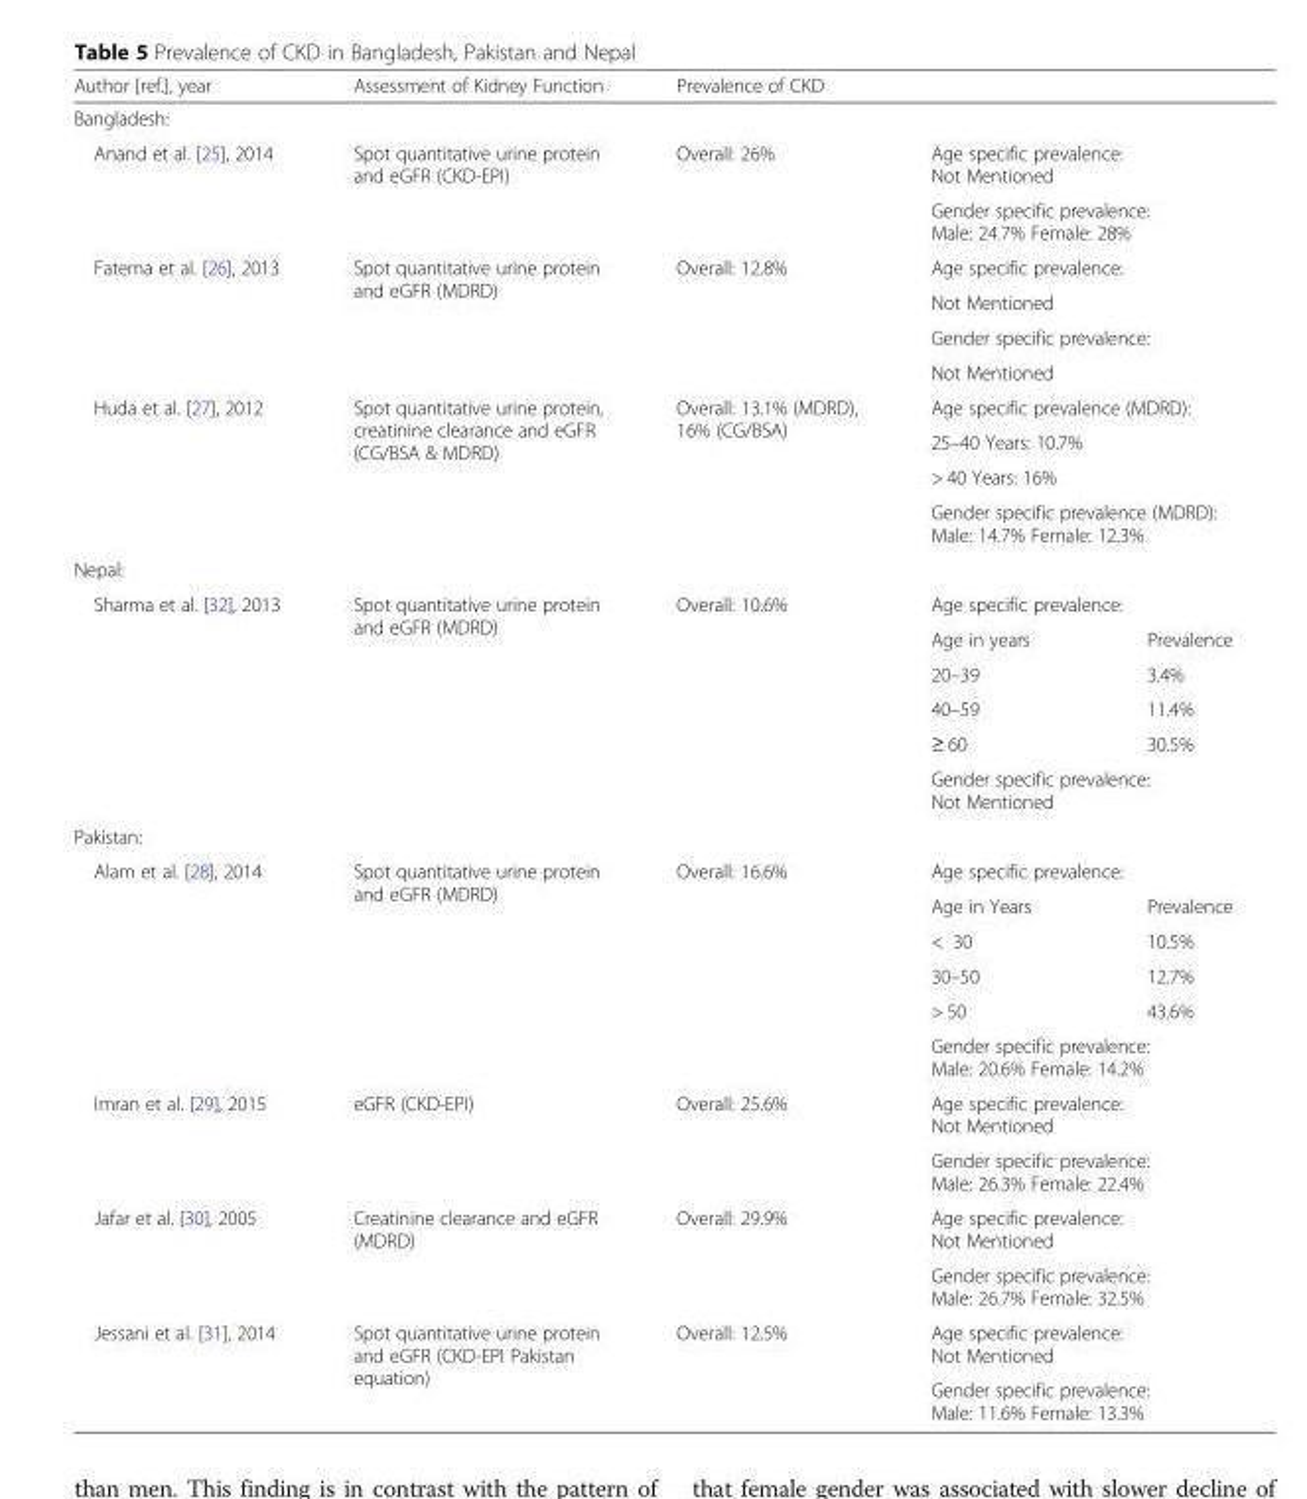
<table><thead><tr><td>Author [ref.], year</td><td>Assessment of Kidney Function</td><td colspan="3">Prevalence of CKD</td></tr></thead><tbody><tr><td colspan="5">Bangladesh:</td></tr><tr><td rowspan="2">Anand et al. [25], 2014</td><td rowspan="2">Spot quantitative urine protein and eGFR (CKD-EPI)</td><td rowspan="2">Overall: 26%</td><td colspan="2">Age specific prevalence: Not Mentioned</td></tr><tr><td colspan="2">Gender specific prevalence: Male: 24.7% Female: 28%</td></tr><tr><td rowspan="4">Fatema et al. [26], 2013</td><td rowspan="4">Spot quantitative urine protein and eGFR (MDRD)</td><td rowspan="4">Overall: 12.8%</td><td colspan="2">Age specific prevalence:</td></tr><tr><td colspan="2">Not Mentioned</td></tr><tr><td colspan="2">Gender specific prevalence:</td></tr><tr><td colspan="2">Not Mentioned</td></tr><tr><td rowspan="4">Huda et al. [27], 2012</td><td rowspan="4">Spot quantitative urine protein, creatinine clearance and eGFR (CG/BSA &amp; MDRD)</td><td rowspan="4">Overall: 13.1% (MDRD), 16% (CG/BSA)</td><td colspan="2">Age specific prevalence (MDRD):</td></tr><tr><td colspan="2">25–40 Years: 10.7%</td></tr><tr><td colspan="2">&gt; 40 Years: 16%</td></tr><tr><td colspan="2">Gender specific prevalence (MDRD): Male: 14.7% Female: 12.3%</td></tr><tr><td colspan="5">Nepal:</td></tr><tr><td rowspan="6">Sharma et al. [32], 2013</td><td rowspan="6">Spot quantitative urine protein and eGFR (MDRD)</td><td rowspan="6">Overall: 10.6%</td><td colspan="2">Age specific prevalence:</td></tr><tr><td>Age in years</td><td>Prevalence</td></tr><tr><td>20–39</td><td>3.4%</td></tr><tr><td>40–59</td><td>11.4%</td></tr><tr><td>≥ 60</td><td>30.5%</td></tr><tr><td colspan="2">Gender specific prevalence: Not Mentioned</td></tr><tr><td colspan="5">Pakistan:</td></tr><tr><td rowspan="6">Alam et al. [28], 2014</td><td rowspan="6">Spot quantitative urine protein and eGFR (MDRD)</td><td rowspan="6">Overall: 16.6%</td><td colspan="2">Age specific prevalence:</td></tr><tr><td>Age in Years</td><td>Prevalence</td></tr><tr><td>&lt; 30</td><td>10.5%</td></tr><tr><td>30–50</td><td>12.7%</td></tr><tr><td>&gt; 50</td><td>43.6%</td></tr><tr><td colspan="2">Gender specific prevalence: Male: 20.6% Female: 14.2%</td></tr><tr><td rowspan="2">Imran et al. [29], 2015</td><td rowspan="2">eGFR (CKD-EPI)</td><td rowspan="2">Overall: 25.6%</td><td colspan="2">Age specific prevalence: Not Mentioned</td></tr><tr><td colspan="2">Gender specific prevalence: Male: 26.3% Female: 22.4%</td></tr><tr><td rowspan="2">Jafar et al. [30], 2005</td><td rowspan="2">Creatinine clearance and eGFR (MDRD)</td><td rowspan="2">Overall: 29.9%</td><td colspan="2">Age specific prevalence: Not Mentioned</td></tr><tr><td colspan="2">Gender specific prevalence: Male: 26.7% Female: 32.5%</td></tr><tr><td rowspan="2">Jessani et al. [31], 2014</td><td rowspan="2">Spot quantitative urine protein and eGFR (CKD-EPI Pakistan equation)</td><td rowspan="2">Overall: 12.5%</td><td colspan="2">Age specific prevalence: Not Mentioned</td></tr><tr><td colspan="2">Gender specific prevalence: Male: 11.6% Female: 13.3%</td></tr></tbody></table>